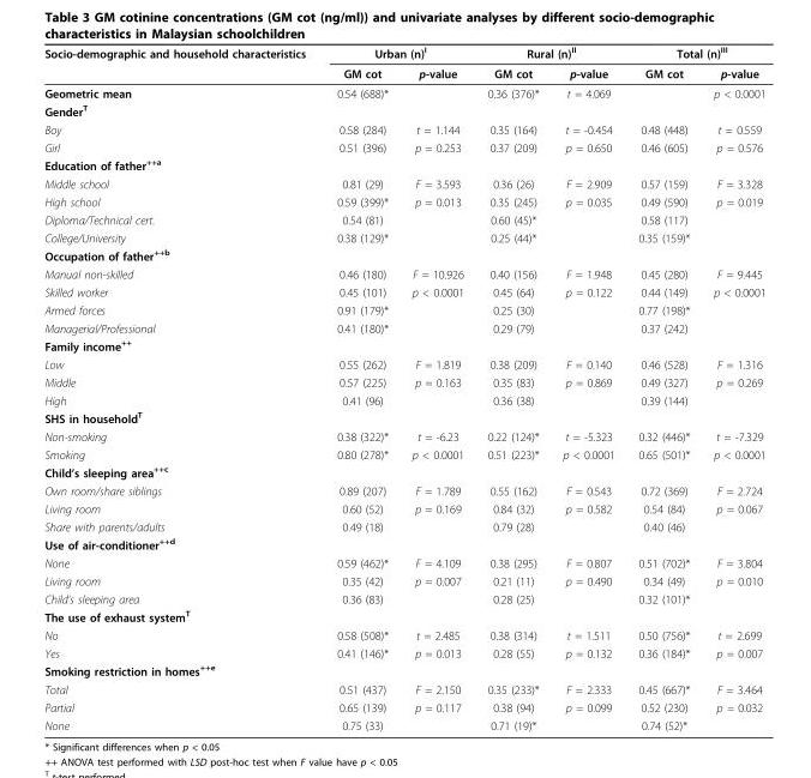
<table><thead><tr><td rowspan="2">Socio-demographic and household characteristics</td><td colspan="2">Urban (n)<sup>I</sup></td><td colspan="2">Rural (n)<sup>II</sup></td><td colspan="2">Total (n)<sup>III</sup></td></tr><tr><td>GM cot</td><td>p-value</td><td>GM cot</td><td>p-value</td><td>GM cot</td><td>p-value</td></tr></thead><tbody><tr><td>Geometric mean</td><td>0.54 (688)*</td><td></td><td>0.36 (376)*</td><td>t = 4.069</td><td></td><td>p &lt; 0.0001</td></tr><tr><td colspan="7">Gender<sup>T</sup></td></tr><tr><td>Boy</td><td>0.58 (284)</td><td>t = 1.144</td><td>0.35 (164)</td><td>t = -0.454</td><td>0.48 (448)</td><td>t = 0.559</td></tr><tr><td>Girl</td><td>0.51 (396)</td><td>p = 0.253</td><td>0.37 (209)</td><td>p = 0.650</td><td>0.46 (605)</td><td>p = 0.576</td></tr><tr><td colspan="7">Education of father<sup>++a</sup></td></tr><tr><td>Middle school</td><td>0.81 (29)</td><td>F = 3.593</td><td>0.36 (26)</td><td>F = 2.909</td><td>0.57 (159)</td><td>F = 3.328</td></tr><tr><td>High school</td><td>0.59 (399)*</td><td>p = 0.013</td><td>0.35 (245)</td><td>p = 0.035</td><td>0.49 (590)</td><td>p = 0.019</td></tr><tr><td>Diploma/Technical cert.</td><td>0.54 (81)</td><td></td><td>0.60 (45)*</td><td></td><td>0.58 (117)</td><td></td></tr><tr><td>College/University</td><td>0.38 (129)*</td><td></td><td>0.25 (44)*</td><td></td><td>0.35 (159)*</td><td></td></tr><tr><td colspan="7">Occupation of father<sup>++b</sup></td></tr><tr><td>Manual non-skilled</td><td>0.46 (180)</td><td>F = 10.926</td><td>0.40 (156)</td><td>F = 1.948</td><td>0.45 (280)</td><td>F = 9.445</td></tr><tr><td>Skilled worker</td><td>0.45 (101)</td><td>p &lt; 0.0001</td><td>0.45 (64)</td><td>p = 0.122</td><td>0.44 (149)</td><td>p &lt; 0.0001</td></tr><tr><td>Armed forces</td><td>0.91 (179)*</td><td></td><td>0.25 (30)</td><td></td><td>0.77 (198)*</td><td></td></tr><tr><td>Managerial/Professional</td><td>0.41 (180)*</td><td></td><td>0.29 (79)</td><td></td><td>0.37 (242)</td><td></td></tr><tr><td colspan="7">Family income<sup>++</sup></td></tr><tr><td>Low</td><td>0.55 (262)</td><td>F = 1.819</td><td>0.38 (209)</td><td>F = 0.140</td><td>0.46 (528)</td><td>F = 1.316</td></tr><tr><td>Middle</td><td>0.57 (225)</td><td>p = 0.163</td><td>0.35 (83)</td><td>p = 0.869</td><td>0.49 (327)</td><td>p = 0.269</td></tr><tr><td>High</td><td>0.41 (96)</td><td></td><td>0.36 (38)</td><td></td><td>0.39 (144)</td><td></td></tr><tr><td colspan="7">SHS in household<sup>T</sup></td></tr><tr><td>Non-smoking</td><td>0.38 (322)*</td><td>t = -6.23</td><td>0.22 (124)*</td><td>t = -5.323</td><td>0.32 (446)*</td><td>t = -7.329</td></tr><tr><td>Smoking</td><td>0.80 (278)*</td><td>p &lt; 0.0001</td><td>0.51 (223)*</td><td>p &lt; 0.0001</td><td>0.65 (501)*</td><td>p &lt; 0.0001</td></tr><tr><td colspan="7">Child’s sleeping area<sup>++c</sup></td></tr><tr><td>Own room/share siblings</td><td>0.89 (207)</td><td>F = 1.789</td><td>0.55 (162)</td><td>F = 0.543</td><td>0.72 (369)</td><td>F = 2.724</td></tr><tr><td>Living room</td><td>0.60 (52)</td><td>p = 0.169</td><td>0.84 (32)</td><td>p = 0.582</td><td>0.54 (84)</td><td>p = 0.067</td></tr><tr><td>Share with parents/adults</td><td>0.49 (18)</td><td></td><td>0.79 (28)</td><td></td><td>0.40 (46)</td><td></td></tr><tr><td colspan="7">Use of air-conditioner<sup>++d</sup></td></tr><tr><td>None</td><td>0.59 (462)*</td><td>F = 4.109</td><td>0.38 (295)</td><td>F = 0.807</td><td>0.51 (702)*</td><td>F = 3.804</td></tr><tr><td>Living room</td><td>0.35 (42)</td><td>p = 0.007</td><td>0.21 (11)</td><td>p = 0.490</td><td>0.34 (49)</td><td>p = 0.010</td></tr><tr><td>Child’s sleeping area</td><td>0.36 (83)</td><td></td><td>0.28 (25)</td><td></td><td>0.32 (101)*</td><td></td></tr><tr><td colspan="7">The use of exhaust system<sup>T</sup></td></tr><tr><td>No</td><td>0.58 (508)*</td><td>t = 2.485</td><td>0.38 (314)</td><td>t = 1.511</td><td>0.50 (756)*</td><td>t = 2.699</td></tr><tr><td>Yes</td><td>0.41 (146)*</td><td>p = 0.013</td><td>0.28 (55)</td><td>p = 0.132</td><td>0.36 (184)*</td><td>p = 0.007</td></tr><tr><td colspan="7">Smoking restriction in homes<sup>++e</sup></td></tr><tr><td>Total</td><td>0.51 (437)</td><td>F = 2.150</td><td>0.35 (233)*</td><td>F = 2.333</td><td>0.45 (667)*</td><td>F = 3.464</td></tr><tr><td>Partial</td><td>0.65 (139)</td><td>p = 0.117</td><td>0.38 (94)</td><td>p = 0.099</td><td>0.52 (230)</td><td>p = 0.032</td></tr><tr><td>None</td><td>0.75 (33)</td><td></td><td>0.71 (19)*</td><td></td><td>0.74 (52)*</td><td></td></tr></tbody></table>